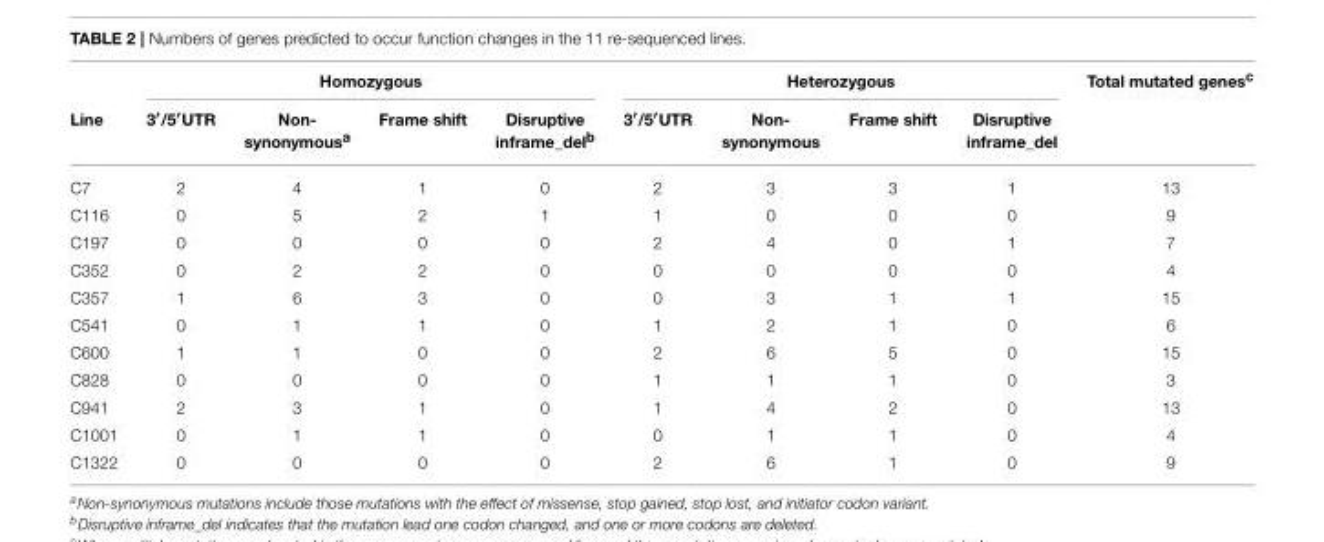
<table><thead><tr><td rowspan="2">Line</td><td colspan="4">Homozygous</td><td colspan="4">Heterozygous</td><td rowspan="2">Total mutated genes<sup>c</sup></td></tr><tr><td>3′/5′UTR</td><td>Non- synonymous<sup>a</sup></td><td>Frame shift</td><td>Disruptive inframe_del<sup>b</sup></td><td>3′/5′UTR</td><td>Non- synonymous</td><td>Frame shift</td><td>Disruptive inframe_del</td></tr></thead><tbody><tr><td>C7</td><td>2</td><td>4</td><td>1</td><td>0</td><td>2</td><td>3</td><td>3</td><td>1</td><td>13</td></tr><tr><td>C116</td><td>0</td><td>5</td><td>2</td><td>1</td><td>1</td><td>0</td><td>0</td><td>0</td><td>9</td></tr><tr><td>C197</td><td>0</td><td>0</td><td>0</td><td>0</td><td>2</td><td>4</td><td>0</td><td>1</td><td>7</td></tr><tr><td>C352</td><td>0</td><td>2</td><td>2</td><td>0</td><td>0</td><td>0</td><td>0</td><td>0</td><td>4</td></tr><tr><td>C357</td><td>1</td><td>6</td><td>3</td><td>0</td><td>0</td><td>3</td><td>1</td><td>1</td><td>15</td></tr><tr><td>C541</td><td>0</td><td>1</td><td>1</td><td>0</td><td>1</td><td>2</td><td>1</td><td>0</td><td>6</td></tr><tr><td>C600</td><td>1</td><td>1</td><td>0</td><td>0</td><td>2</td><td>6</td><td>5</td><td>0</td><td>15</td></tr><tr><td>C828</td><td>0</td><td>0</td><td>0</td><td>0</td><td>1</td><td>1</td><td>1</td><td>0</td><td>3</td></tr><tr><td>C941</td><td>2</td><td>3</td><td>1</td><td>0</td><td>1</td><td>4</td><td>2</td><td>0</td><td>13</td></tr><tr><td>C1001</td><td>0</td><td>1</td><td>1</td><td>0</td><td>0</td><td>1</td><td>1</td><td>0</td><td>4</td></tr><tr><td>C1322</td><td>0</td><td>0</td><td>0</td><td>0</td><td>2</td><td>6</td><td>1</td><td>0</td><td>9</td></tr></tbody></table>